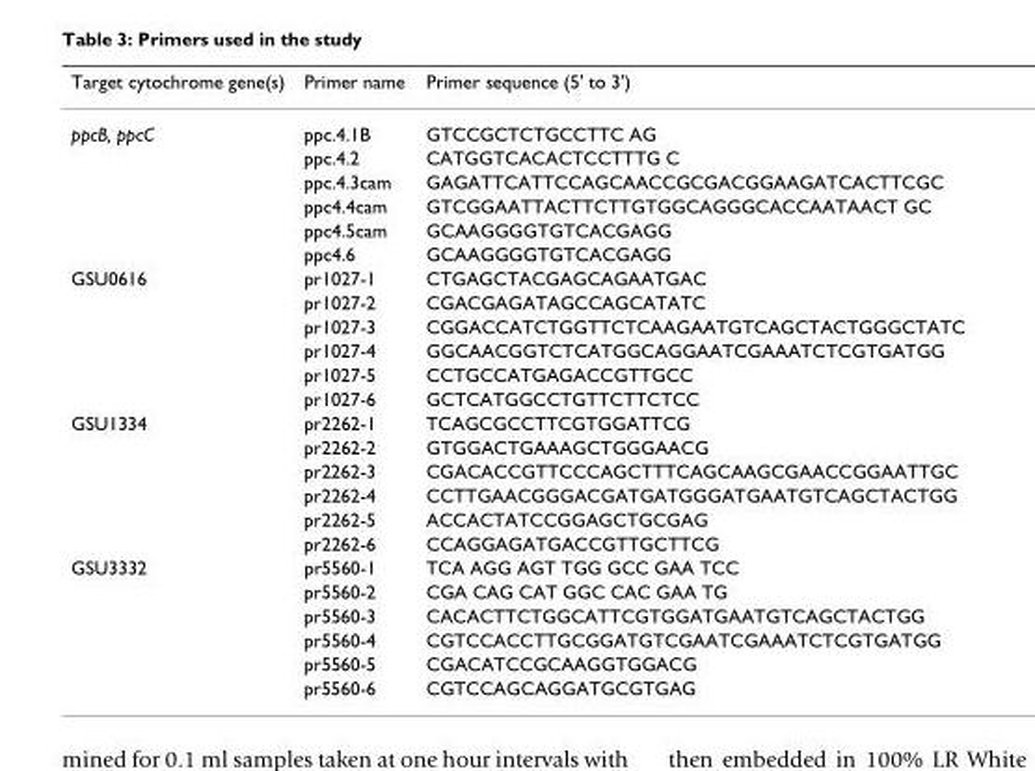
<table><thead><tr><td>Target cytochrome gene(s)</td><td>Primer name</td><td>Primer sequence (5&#x27; to 3&#x27;)</td></tr></thead><tbody><tr><td rowspan="6">ppcB, ppcC</td><td>ppc.4.1B</td><td>GTCCGCTCTGCCTTC AG</td></tr><tr><td>ppc.4.2</td><td>CATGGTCACACTCCTTTG C</td></tr><tr><td>ppc.4.3cam</td><td>GAGATTCATTCCAGCAACCGCGACGGAAGATCACTTCGC</td></tr><tr><td>ppc4.4cam</td><td>GTCGGAATTACTTCTTGTGGCAGGGCACCAATAACT GC</td></tr><tr><td>ppc4.5cam</td><td>GCAAGGGGTGTCACGAGG</td></tr><tr><td>ppc4.6</td><td>GCAAGGGGTGTCACGAGG</td></tr><tr><td rowspan="6">GSU0616</td><td>pr1027-1</td><td>CTGAGCTACGAGCAGAATGAC</td></tr><tr><td>pr1027-2</td><td>CGACGAGATAGCCAGCATATC</td></tr><tr><td>pr1027-3</td><td>CGGACCATCTGGTTCTCAAGAATGTCAGCTACTGGGCTATC</td></tr><tr><td>pr1027-4</td><td>GGCAACGGTCTCATGGCAGGAATCGAAATCTCGTGATGG</td></tr><tr><td>pr1027-5</td><td>CCTGCCATGAGACCGTTGCC</td></tr><tr><td>pr1027-6</td><td>GCTCATGGCCTGTTCTTCTCC</td></tr><tr><td rowspan="6">GSU1334</td><td>pr2262-1</td><td>TCAGCGCCTTCGTGGATTCG</td></tr><tr><td>pr2262-2</td><td>GTGGACTGAAAGCTGGGAACG</td></tr><tr><td>pr2262-3</td><td>CGACACCGTTCCCAGCTTTCAGCAAGCGAACCGGAATTGC</td></tr><tr><td>pr2262-4</td><td>CCTTGAACGGGACGATGATGGGATGAATGTCAGCTACTGG</td></tr><tr><td>pr2262-5</td><td>ACCACTATCCGGAGCTGCGAG</td></tr><tr><td>pr2262-6</td><td>CCAGGAGATGACCGTTGCTTCG</td></tr><tr><td rowspan="6">GSU3332</td><td>pr5560-1</td><td>TCA AGG AGT TGG GCC GAA TCC</td></tr><tr><td>pr5560-2</td><td>CGA CAG CAT GGC CAC GAA TG</td></tr><tr><td>pr5560-3</td><td>CACACTTCTGGCATTCGTGGATGAATGTCAGCTACTGG</td></tr><tr><td>pr5560-4</td><td>CGTCCACCTTGCGGATGTCGAATCGAAATCTCGTGATGG</td></tr><tr><td>pr5560-5</td><td>CGACATCCGCAAGGTGGACG</td></tr><tr><td>pr5560-6</td><td>CGTCCAGCAGGATGCGTGAG</td></tr></tbody></table>